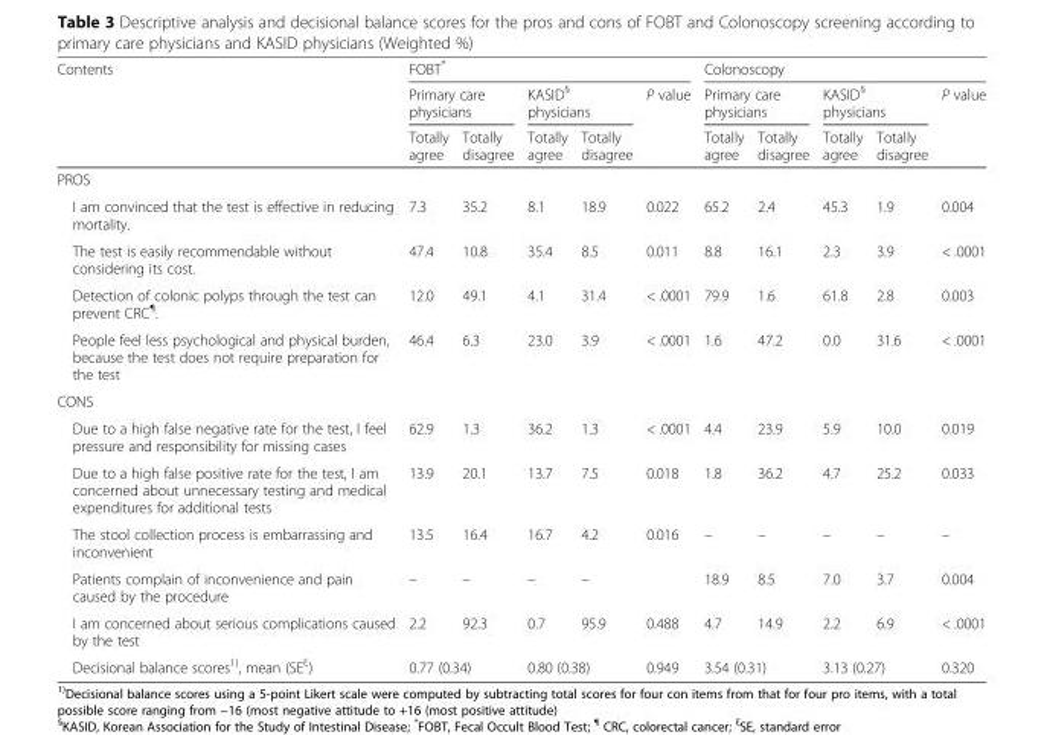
<table><thead><tr><td rowspan="3">Contents</td><td colspan="5">FOBT*</td><td colspan="5">Colonoscopy</td></tr><tr><td colspan="2">Primary care physicians</td><td colspan="2">KASID<sup>§</sup> physicians</td><td rowspan="2">P value</td><td colspan="2">Primary care physicians</td><td colspan="2">KASID<sup>§</sup> physicians</td><td rowspan="2">P value</td></tr><tr><td>Totally agree</td><td>Totally disagree</td><td>Totally agree</td><td>Totally disagree</td><td>Totally agree</td><td>Totally disagree</td><td>Totally agree</td><td>Totally disagree</td></tr></thead><tbody><tr><td colspan="11">PROS</td></tr><tr><td>I am convinced that the test is effective in reducing mortality.</td><td>7.3</td><td>35.2</td><td>8.1</td><td>18.9</td><td>0.022</td><td>65.2</td><td>2.4</td><td>45.3</td><td>1.9</td><td>0.004</td></tr><tr><td>The test is easily recommendable without considering its cost.</td><td>47.4</td><td>10.8</td><td>35.4</td><td>8.5</td><td>0.011</td><td>8.8</td><td>16.1</td><td>2.3</td><td>3.9</td><td>&lt; .0001</td></tr><tr><td>Detection of colonic polyps through the test can prevent CRC<sup>¶</sup>.</td><td>12.0</td><td>49.1</td><td>4.1</td><td>31.4</td><td>&lt; .0001</td><td>79.9</td><td>1.6</td><td>61.8</td><td>2.8</td><td>0.003</td></tr><tr><td>People feel less psychological and physical burden, because the test does not require preparation for the test</td><td>46.4</td><td>6.3</td><td>23.0</td><td>3.9</td><td>&lt; .0001</td><td>1.6</td><td>47.2</td><td>0.0</td><td>31.6</td><td>&lt; .0001</td></tr><tr><td colspan="11">CONS</td></tr><tr><td>Due to a high false negative rate for the test, I feel pressure and responsibility for missing cases</td><td>62.9</td><td>1.3</td><td>36.2</td><td>1.3</td><td>&lt; .0001</td><td>4.4</td><td>23.9</td><td>5.9</td><td>10.0</td><td>0.019</td></tr><tr><td>Due to a high false positive rate for the test, I am concerned about unnecessary testing and medical expenditures for additional tests</td><td>13.9</td><td>20.1</td><td>13.7</td><td>7.5</td><td>0.018</td><td>1.8</td><td>36.2</td><td>4.7</td><td>25.2</td><td>0.033</td></tr><tr><td>The stool collection process is embarrassing and inconvenient</td><td>13.5</td><td>16.4</td><td>16.7</td><td>4.2</td><td>0.016</td><td>–</td><td>–</td><td>–</td><td>–</td><td>–</td></tr><tr><td>Patients complain of inconvenience and pain caused by the procedure</td><td>–</td><td>–</td><td>–</td><td>–</td><td></td><td>18.9</td><td>8.5</td><td>7.0</td><td>3.7</td><td>0.004</td></tr><tr><td>I am concerned about serious complications caused by the test</td><td>2.2</td><td>92.3</td><td>0.7</td><td>95.9</td><td>0.488</td><td>4.7</td><td>14.9</td><td>2.2</td><td>6.9</td><td>&lt; .0001</td></tr><tr><td>Decisional balance scores<sup>1)</sup>, mean (SE<sup>ξ</sup>)</td><td colspan="2">0.77 (0.34)</td><td colspan="2">0.80 (0.38)</td><td>0.949</td><td colspan="2">3.54 (0.31)</td><td colspan="2">3.13 (0.27)</td><td>0.320</td></tr></tbody></table>